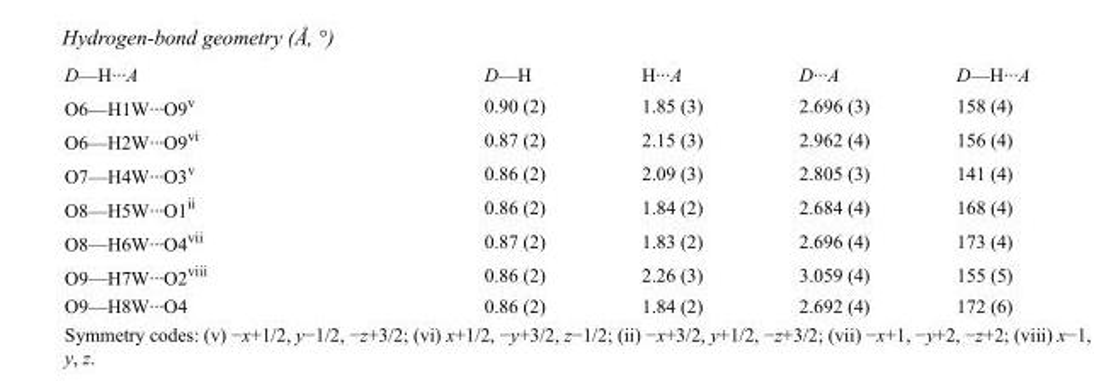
<table><tbody><tr><td>D—H···A</td><td>D—H</td><td>H···A</td><td>D···A</td><td>D—H···A</td></tr><tr><td>O6—H1W···O9<sup>v</sup></td><td>0.90 (2)</td><td>1.85 (3)</td><td>2.696 (3)</td><td>158 (4)</td></tr><tr><td>O6—H2W···O9<sup>vi</sup></td><td>0.87 (2)</td><td>2.15 (3)</td><td>2.962 (4)</td><td>156 (4)</td></tr><tr><td>O7—H4W···O3<sup>v</sup></td><td>0.86 (2)</td><td>2.09 (3)</td><td>2.805 (3)</td><td>141 (4)</td></tr><tr><td>O8—H5W···O1<sup>ii</sup></td><td>0.86 (2)</td><td>1.84 (2)</td><td>2.684 (4)</td><td>168 (4)</td></tr><tr><td>O8—H6W···O4<sup>vii</sup></td><td>0.87 (2)</td><td>1.83 (2)</td><td>2.696 (4)</td><td>173 (4)</td></tr><tr><td>O9—H7W···O2<sup>viii</sup></td><td>0.86 (2)</td><td>2.26 (3)</td><td>3.059 (4)</td><td>155 (5)</td></tr><tr><td>O9—H8W···O4</td><td>0.86 (2)</td><td>1.84 (2)</td><td>2.692 (4)</td><td>172 (6)</td></tr></tbody></table>